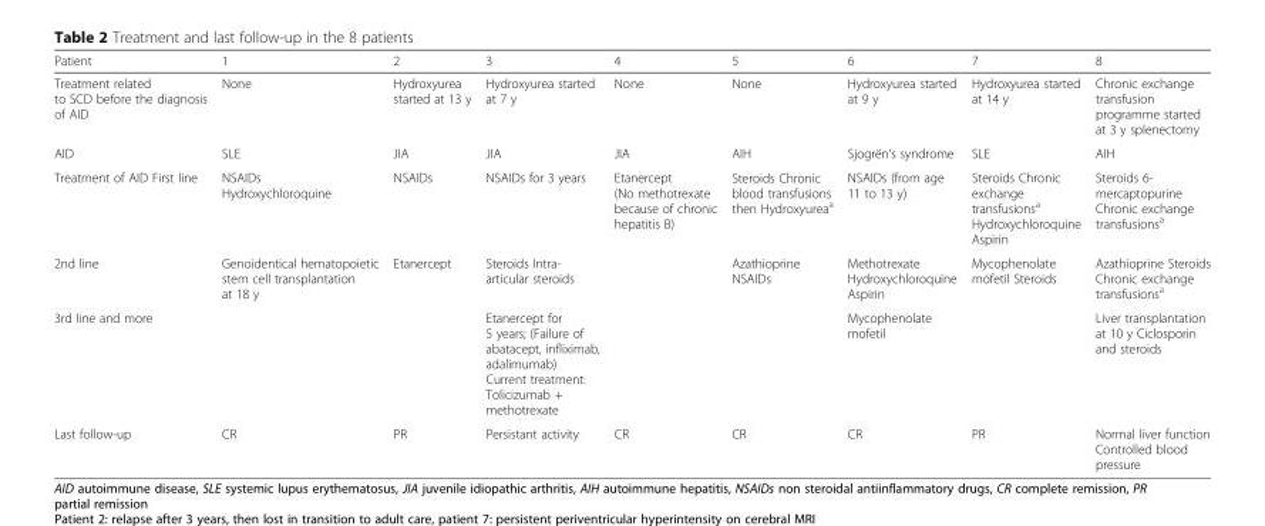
<table><thead><tr><td>Patient</td><td>1</td><td>2</td><td>3</td><td>4</td><td>5</td><td>6</td><td>7</td><td>8</td></tr></thead><tbody><tr><td>Treatment related to SCD before the diagnosis of AID</td><td>None</td><td>Hydroxyurea started at 13 y</td><td>Hydroxyurea started at 7 y</td><td>None</td><td>None</td><td>Hydroxyurea started at 9 y</td><td>Hydroxyurea started at 14 y</td><td>Chronic exchange transfusion programme started at 3 y splenectomy</td></tr><tr><td>AID</td><td>SLE</td><td>JIA</td><td>JIA</td><td>JIA</td><td>AIH</td><td>Sjogrën’s syndrome</td><td>SLE</td><td>AIH</td></tr><tr><td>Treatment of AID First line</td><td>NSAIDs Hydroxychloroquine</td><td>NSAIDs</td><td>NSAIDs for 3 years</td><td>Etanercept (No methotrexate because of chronic hepatitis B)</td><td>Steroids Chronic blood transfusions then Hydroxyurea<sup>a</sup></td><td>NSAIDs (from age 11 to 13 y)</td><td>Steroids Chronic exchange transfusions<sup>a</sup> Hydroxychloroquine Aspirin</td><td>Steroids 6- mercaptopurine Chronic exchange transfusions<sup>a</sup></td></tr><tr><td>2nd line</td><td>Genoidentical hematopoietic stem cell transplantation at 18 y</td><td>Etanercept</td><td>Steroids Intra- articular steroids</td><td></td><td>Azathioprine NSAIDs</td><td>Methotrexate Hydroxychloroquine Aspirin</td><td>Mycophenolate mofetil Steroids</td><td>Azathioprine Steroids Chronic exchange transfusions<sup>a</sup></td></tr><tr><td>3rd line and more</td><td></td><td></td><td>Etanercept for 5 years; (Failure of abatacept, infliximab, adalimumab) Current treatment: Tolicizumab + methotrexate</td><td></td><td></td><td>Mycophenolate mofetil</td><td></td><td>Liver transplantation at 10 y Ciclosporin and steroids</td></tr><tr><td>Last follow-up</td><td>CR</td><td>PR</td><td>Persistant activity</td><td>CR</td><td>CR</td><td>CR</td><td>PR</td><td>Normal liver function Controlled blood pressure</td></tr></tbody></table>